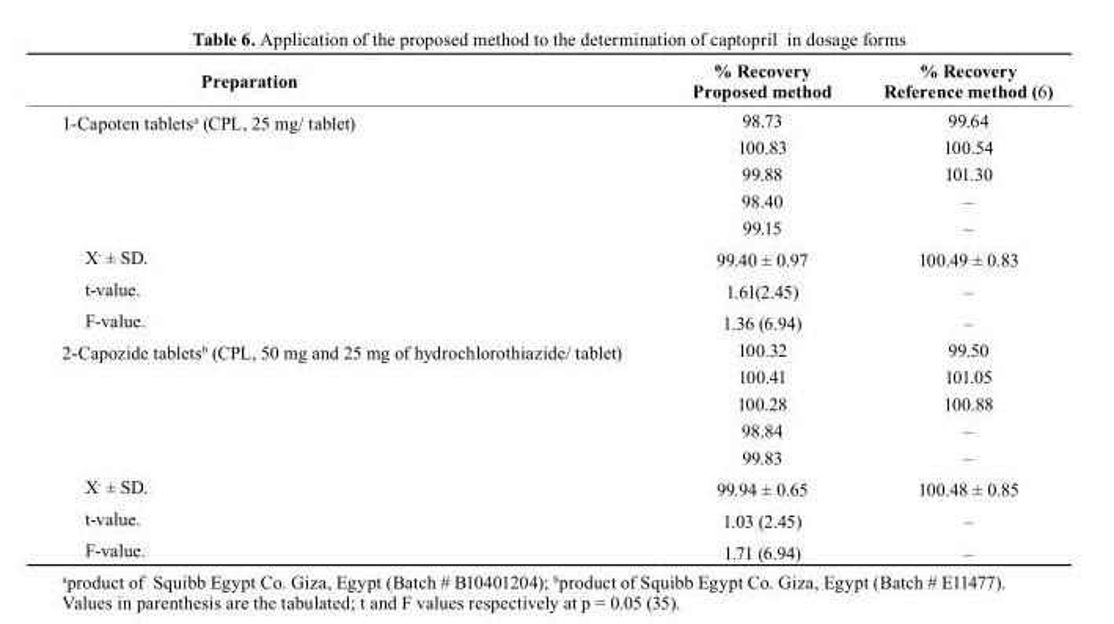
<table><thead><tr><td>Preparation</td><td>% recovery Proposed method</td><td>% recovery reference method (6)</td></tr></thead><tbody><tr><td rowspan="5">1-Capoten tablets<sup>a</sup> (CPL, 25 mg/ tablet)</td><td>98.73</td><td>99.64</td></tr><tr><td>100.83</td><td>100.54</td></tr><tr><td>99.88</td><td>101.30</td></tr><tr><td>98.40</td><td>–</td></tr><tr><td>99.15</td><td>–</td></tr><tr><td>X<sup>-</sup> ± SD.</td><td>99.40 ± 0.97</td><td>100.49 ± 0.83</td></tr><tr><td>t-value.</td><td>1.61(2.45)</td><td>–</td></tr><tr><td>F-value.</td><td>1.36 (6.94)</td><td>–</td></tr><tr><td rowspan="5">2-Capozide tablets<sup>b</sup> (CPL, 50 mg and 25 mg of hydrochlorothiazide/ tablet)</td><td>100.32</td><td>99.50</td></tr><tr><td>100.41</td><td>101.05</td></tr><tr><td>100.28</td><td>100.88</td></tr><tr><td>98.84</td><td>–</td></tr><tr><td>99.83</td><td>–</td></tr><tr><td>X<sup>-</sup> ± SD.</td><td>99.94 ± 0.65</td><td>100.48 ± 0.85</td></tr><tr><td>t-value.</td><td>1.03 (2.45)</td><td>–</td></tr><tr><td>F-value.</td><td>1.71 (6.94)</td><td>–</td></tr></tbody></table>